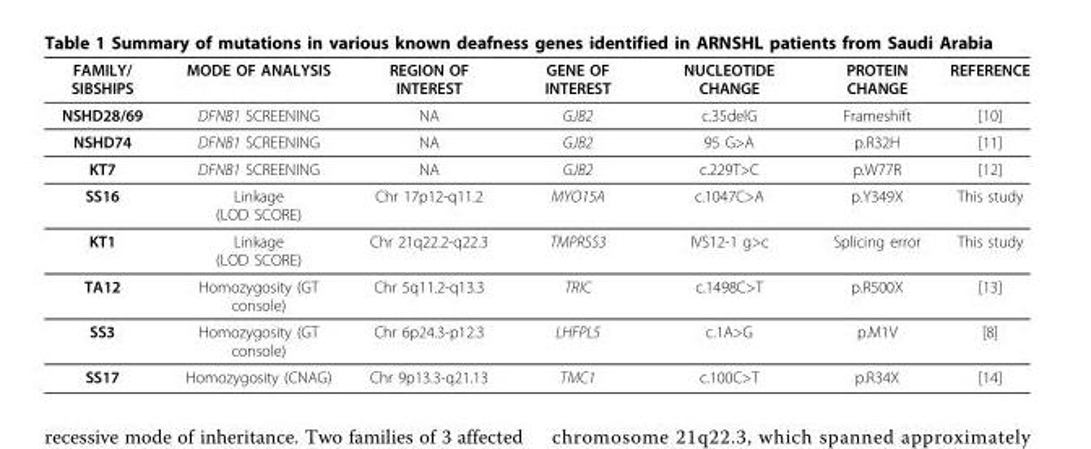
<table><thead><tr><td>FAMILY/ SIBSHIPS</td><td>MODE OF ANALYSIS</td><td>REGION OF INTEREST</td><td>GENE OF INTEREST</td><td>NUCLEOTIDE CHANGE</td><td>PROTEIN CHANGE</td><td>REFERENCE</td></tr></thead><tbody><tr><td>NSHD28/69</td><td>DFNB1 SCREENING</td><td>NA</td><td>GJB2</td><td>c.35delG</td><td>Frameshift</td><td>[10]</td></tr><tr><td>NSHD74</td><td>DFNB1 SCREENING</td><td>NA</td><td>GJB2</td><td>95 G&gt;A</td><td>p.R32H</td><td>[11]</td></tr><tr><td>KT7</td><td>DFNB1 SCREENING</td><td>NA</td><td>GJB2</td><td>c.229T&gt;C</td><td>p.W77R</td><td>[12]</td></tr><tr><td>SS16</td><td>Linkage (LOD SCORE)</td><td>Chr 17p12-q11.2</td><td>MYO15A</td><td>c.1047C&gt;A</td><td>p.Y349X</td><td>This study</td></tr><tr><td>KT1</td><td>Linkage (LOD SCORE)</td><td>Chr 21q22.2-q22.3</td><td>TMPRSS3</td><td>IVS12-1 g&gt;c</td><td>Splicing error</td><td>This study</td></tr><tr><td>TA12</td><td>Homozygosity (GT console)</td><td>Chr 5q11.2-q13.3</td><td>TRIC</td><td>c.1498C&gt;T</td><td>p.R500X</td><td>[13]</td></tr><tr><td>SS3</td><td>Homozygosity (GT console)</td><td>Chr 6p24.3-p12.3</td><td>LHFPL5</td><td>c.1A&gt;G</td><td>p.M1V</td><td>[8]</td></tr><tr><td>SS17</td><td>Homozygosity (CNAG)</td><td>Chr 9p13.3-q21.13</td><td>TMC1</td><td>c.100C&gt;T</td><td>p.R34X</td><td>[14]</td></tr></tbody></table>